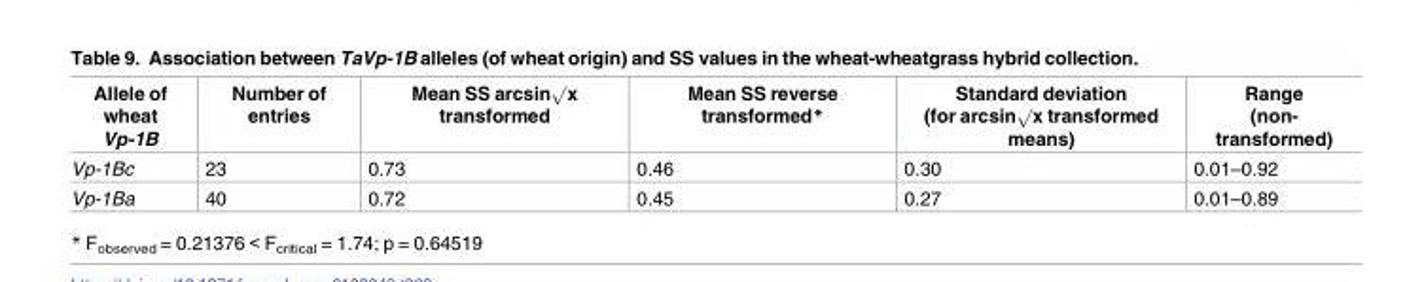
<table><thead><tr><td>Allele of wheat Vp-1B</td><td>Number of entries</td><td>Mean SS arcsin√x transformed</td><td>Mean SS reverse transformed*</td><td>Standard deviation (for arcsin√x transformed means)</td><td>Range (non- transformed)</td></tr></thead><tbody><tr><td>Vp-1Bc</td><td>23</td><td>0.73</td><td>0.46</td><td>0.30</td><td>0.01–0.92</td></tr><tr><td>Vp-1Ba</td><td>40</td><td>0.72</td><td>0.45</td><td>0.27</td><td>0.01–0.89</td></tr></tbody></table>